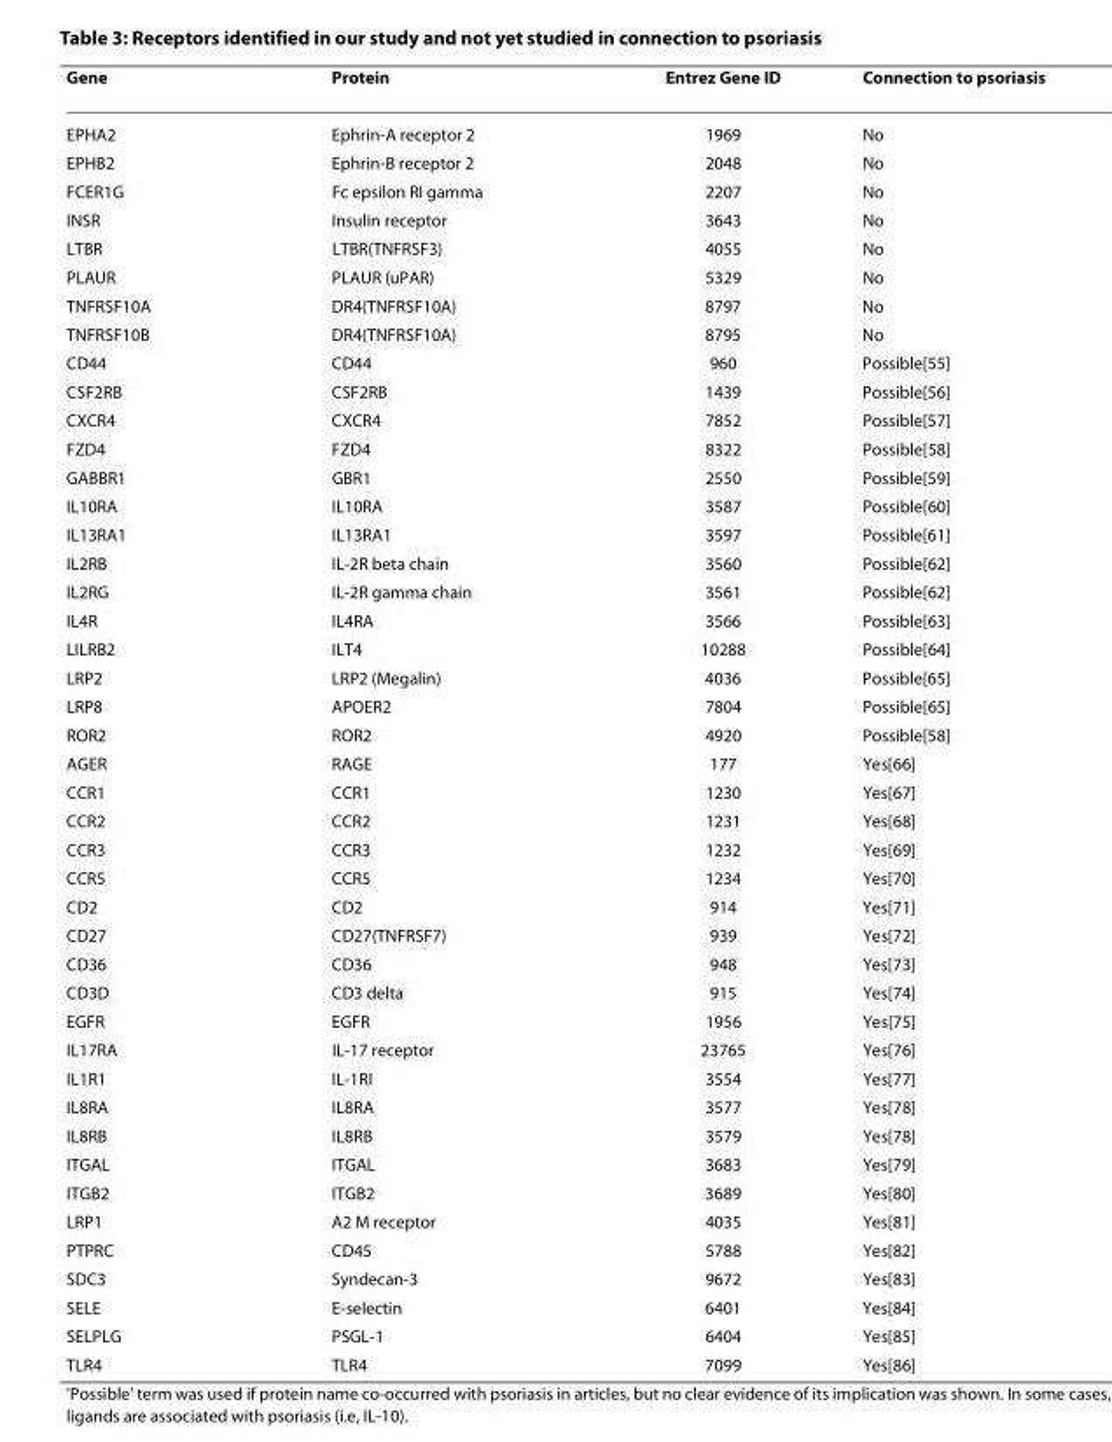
<table><thead><tr><td>Gene</td><td>Protein</td><td>Entrez Gene ID</td><td>Connection to psoriasis</td></tr></thead><tbody><tr><td>EPHA2</td><td>Ephrin-A receptor 2</td><td>1969</td><td>No</td></tr><tr><td>EPHB2</td><td>Ephrin-B receptor 2</td><td>2048</td><td>No</td></tr><tr><td>FCER1G</td><td>Fc epsilon RI gamma</td><td>2207</td><td>No</td></tr><tr><td>INSR</td><td>Insulin receptor</td><td>3643</td><td>No</td></tr><tr><td>LTBR</td><td>LTBR(TNFRSF3)</td><td>4055</td><td>No</td></tr><tr><td>PLAUR</td><td>PLAUR (uPAR)</td><td>5329</td><td>No</td></tr><tr><td>TNFRSF10A</td><td>DR4(TNFRSF10A)</td><td>8797</td><td>No</td></tr><tr><td>TNFRSF10B</td><td>DR4(TNFRSF10A)</td><td>8795</td><td>No</td></tr><tr><td>CD44</td><td>CD44</td><td>960</td><td>Possible[55]</td></tr><tr><td>CSF2RB</td><td>CSF2RB</td><td>1439</td><td>Possible[56]</td></tr><tr><td>CXCR4</td><td>CXCR4</td><td>7852</td><td>Possible[57]</td></tr><tr><td>FZD4</td><td>FZD4</td><td>8322</td><td>Possible[58]</td></tr><tr><td>GABBR1</td><td>GBR1</td><td>2550</td><td>Possible[59]</td></tr><tr><td>IL10RA</td><td>IL10RA</td><td>3587</td><td>Possible[60]</td></tr><tr><td>IL13RA1</td><td>IL13RA1</td><td>3597</td><td>Possible[61]</td></tr><tr><td>IL2RB</td><td>IL-2R beta chain</td><td>3560</td><td>Possible[62]</td></tr><tr><td>IL2RG</td><td>IL-2R gamma chain</td><td>3561</td><td>Possible[62]</td></tr><tr><td>IL4R</td><td>IL4RA</td><td>3566</td><td>Possible[63]</td></tr><tr><td>LILRB2</td><td>ILT4</td><td>10288</td><td>Possible[64]</td></tr><tr><td>LRP2</td><td>LRP2 (Megalin)</td><td>4036</td><td>Possible[65]</td></tr><tr><td>LRP8</td><td>APOER2</td><td>7804</td><td>Possible[65]</td></tr><tr><td>ROR2</td><td>ROR2</td><td>4920</td><td>Possible[58]</td></tr><tr><td>AGER</td><td>RAGE</td><td>177</td><td>Yes[66]</td></tr><tr><td>CCR1</td><td>CCR1</td><td>1230</td><td>Yes[67]</td></tr><tr><td>CCR2</td><td>CCR2</td><td>1231</td><td>Yes[68]</td></tr><tr><td>CCR3</td><td>CCR3</td><td>1232</td><td>Yes[69]</td></tr><tr><td>CCR5</td><td>CCR5</td><td>1234</td><td>Yes[70]</td></tr><tr><td>CD2</td><td>CD2</td><td>914</td><td>Yes[71]</td></tr><tr><td>CD27</td><td>CD27(TNFRSF7)</td><td>939</td><td>Yes[72]</td></tr><tr><td>CD36</td><td>CD36</td><td>948</td><td>Yes[73]</td></tr><tr><td>CD3D</td><td>CD3 delta</td><td>915</td><td>Yes[74]</td></tr><tr><td>EGFR</td><td>EGFR</td><td>1956</td><td>Yes[75]</td></tr><tr><td>IL17RA</td><td>IL-17 receptor</td><td>23765</td><td>Yes[76]</td></tr><tr><td>IL1R1</td><td>IL-1RI</td><td>3554</td><td>Yes[77]</td></tr><tr><td>IL8RA</td><td>IL8RA</td><td>3577</td><td>Yes[78]</td></tr><tr><td>IL8RB</td><td>IL8RB</td><td>3579</td><td>Yes[78]</td></tr><tr><td>ITGAL</td><td>ITGAL</td><td>3683</td><td>Yes[79]</td></tr><tr><td>ITGB2</td><td>ITGB2</td><td>3689</td><td>Yes[80]</td></tr><tr><td>LRP1</td><td>A2 M receptor</td><td>4035</td><td>Yes[81]</td></tr><tr><td>PTPRC</td><td>CD45</td><td>5788</td><td>Yes[82]</td></tr><tr><td>SDC3</td><td>Syndecan-3</td><td>9672</td><td>Yes[83]</td></tr><tr><td>SELE</td><td>E-selectin</td><td>6401</td><td>Yes[84]</td></tr><tr><td>SELPLG</td><td>PSGL-1</td><td>6404</td><td>Yes[85]</td></tr><tr><td>TLR4</td><td>TLR4</td><td>7099</td><td>Yes[86]</td></tr></tbody></table>